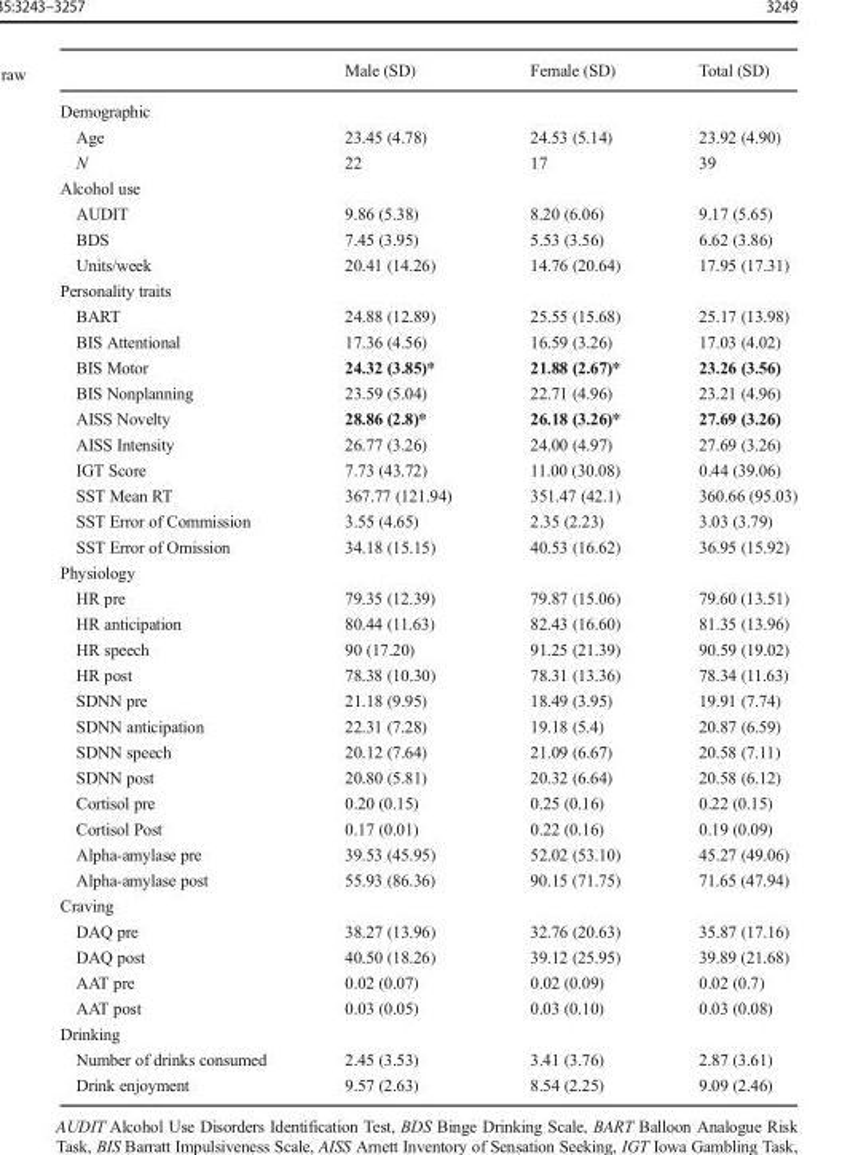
<table><thead><tr><td></td><td>Male (SD)</td><td>Female (SD)</td><td>Total (SD)</td></tr></thead><tbody><tr><td colspan="4">Demographic</td></tr><tr><td>Age</td><td>23.45 (4.78)</td><td>24.53 (5.14)</td><td>23.92 (4.90)</td></tr><tr><td>N</td><td>22</td><td>17</td><td>39</td></tr><tr><td colspan="4">Alcohol use</td></tr><tr><td>AUDIT</td><td>9.86 (5.38)</td><td>8.20 (6.06)</td><td>9.17 (5.65)</td></tr><tr><td>BDS</td><td>7.45 (3.95)</td><td>5.53 (3.56)</td><td>6.62 (3.86)</td></tr><tr><td>Units/week</td><td>20.41 (14.26)</td><td>14.76 (20.64)</td><td>17.95 (17.31)</td></tr><tr><td colspan="4">Personality traits</td></tr><tr><td>BART</td><td>24.88 (12.89)</td><td>25.55 (15.68)</td><td>25.17 (13.98)</td></tr><tr><td>BIS Attentional</td><td>17.36 (4.56)</td><td>16.59 (3.26)</td><td>17.03 (4.02)</td></tr><tr><td>BIS Motor</td><td>24.32 (3.85)*</td><td>21.88 (2.67)*</td><td>23.26 (3.56)</td></tr><tr><td>BIS Nonplanning</td><td>23.59 (5.04)</td><td>22.71 (4.96)</td><td>23.21 (4.96)</td></tr><tr><td>AISS Novelty</td><td>28.86 (2.8)*</td><td>26.18 (3.26)*</td><td>27.69 (3.26)</td></tr><tr><td>AISS Intensity</td><td>26.77 (3.26)</td><td>24.00 (4.97)</td><td>27.69 (3.26)</td></tr><tr><td>IGT Score</td><td>7.73 (43.72)</td><td>11.00 (30.08)</td><td>0.44 (39.06)</td></tr><tr><td>SST Mean RT</td><td>367.77 (121.94)</td><td>351.47 (42.1)</td><td>360.66 (95.03)</td></tr><tr><td>SST Error of Commission</td><td>3.55 (4.65)</td><td>2.35 (2.23)</td><td>3.03 (3.79)</td></tr><tr><td>SST Error of Omission</td><td>34.18 (15.15)</td><td>40.53 (16.62)</td><td>36.95 (15.92)</td></tr><tr><td colspan="4">Physiology</td></tr><tr><td>HR pre</td><td>79.35 (12.39)</td><td>79.87 (15.06)</td><td>79.60 (13.51)</td></tr><tr><td>HR anticipation</td><td>80.44 (11.63)</td><td>82.43 (16.60)</td><td>81.35 (13.96)</td></tr><tr><td>HR speech</td><td>90 (17.20)</td><td>91.25 (21.39)</td><td>90.59 (19.02)</td></tr><tr><td>HR post</td><td>78.38 (10.30)</td><td>78.31 (13.36)</td><td>78.34 (11.63)</td></tr><tr><td>SDNN pre</td><td>21.18 (9.95)</td><td>18.49 (3.95)</td><td>19.91 (7.74)</td></tr><tr><td>SDNN anticipation</td><td>22.31 (7.28)</td><td>19.18 (5.4)</td><td>20.87 (6.59)</td></tr><tr><td>SDNN speech</td><td>20.12 (7.64)</td><td>21.09 (6.67)</td><td>20.58 (7.11)</td></tr><tr><td>SDNN post</td><td>20.80 (5.81)</td><td>20.32 (6.64)</td><td>20.58 (6.12)</td></tr><tr><td>Cortisol pre</td><td>0.20 (0.15)</td><td>0.25 (0.16)</td><td>0.22 (0.15)</td></tr><tr><td>Cortisol Post</td><td>0.17 (0.01)</td><td>0.22 (0.16)</td><td>0.19 (0.09)</td></tr><tr><td>Alpha-amylase pre</td><td>39.53 (45.95)</td><td>52.02 (53.10)</td><td>45.27 (49.06)</td></tr><tr><td>Alpha-amylase post</td><td>55.93 (86.36)</td><td>90.15 (71.75)</td><td>71.65 (47.94)</td></tr><tr><td colspan="4">Craving</td></tr><tr><td>DAQ pre</td><td>38.27 (13.96)</td><td>32.76 (20.63)</td><td>35.87 (17.16)</td></tr><tr><td>DAQ post</td><td>40.50 (18.26)</td><td>39.12 (25.95)</td><td>39.89 (21.68)</td></tr><tr><td>AAT pre</td><td>0.02 (0.07)</td><td>0.02 (0.09)</td><td>0.02 (0.7)</td></tr><tr><td>AAT post</td><td>0.03 (0.05)</td><td>0.03 (0.10)</td><td>0.03 (0.08)</td></tr><tr><td colspan="4">Drinking</td></tr><tr><td>Number of drinks consumed</td><td>2.45 (3.53)</td><td>3.41 (3.76)</td><td>2.87 (3.61)</td></tr><tr><td>Drink enjoyment</td><td>9.57 (2.63)</td><td>8.54 (2.25)</td><td>9.09 (2.46)</td></tr></tbody></table>